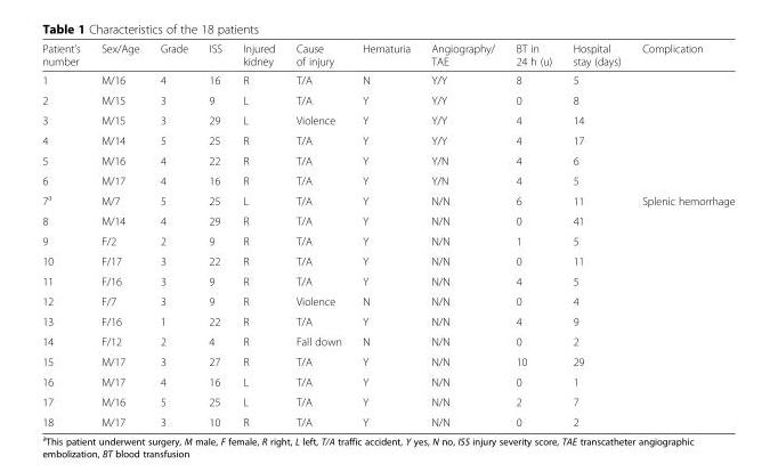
<table><thead><tr><td>Patient’s number</td><td>Sex/Age</td><td>Grade</td><td>ISS</td><td>Injured kidney</td><td>Cause of injury</td><td>Hematuria</td><td>Angiography/ TAE</td><td>BT in 24 h (u)</td><td>Hospital stay (days)</td><td>Complication</td></tr></thead><tbody><tr><td>1</td><td>M/16</td><td>4</td><td>16</td><td>R</td><td>T/A</td><td>N</td><td>Y/Y</td><td>8</td><td>5</td><td></td></tr><tr><td>2</td><td>M/15</td><td>3</td><td>9</td><td>L</td><td>T/A</td><td>Y</td><td>Y/Y</td><td>0</td><td>8</td><td></td></tr><tr><td>3</td><td>M/15</td><td>3</td><td>29</td><td>L</td><td>Violence</td><td>Y</td><td>Y/Y</td><td>4</td><td>14</td><td></td></tr><tr><td>4</td><td>M/14</td><td>5</td><td>25</td><td>R</td><td>T/A</td><td>Y</td><td>Y/Y</td><td>4</td><td>17</td><td></td></tr><tr><td>5</td><td>M/16</td><td>4</td><td>22</td><td>R</td><td>T/A</td><td>Y</td><td>Y/N</td><td>4</td><td>6</td><td></td></tr><tr><td>6</td><td>M/17</td><td>4</td><td>16</td><td>R</td><td>T/A</td><td>Y</td><td>Y/N</td><td>4</td><td>5</td><td></td></tr><tr><td>7<sup>a</sup></td><td>M/7</td><td>5</td><td>25</td><td>L</td><td>T/A</td><td>Y</td><td>N/N</td><td>6</td><td>11</td><td>Splenic hemorrhage</td></tr><tr><td>8</td><td>M/14</td><td>4</td><td>29</td><td>R</td><td>T/A</td><td>Y</td><td>N/N</td><td>0</td><td>41</td><td></td></tr><tr><td>9</td><td>F/2</td><td>2</td><td>9</td><td>R</td><td>T/A</td><td>Y</td><td>N/N</td><td>1</td><td>5</td><td></td></tr><tr><td>10</td><td>F/17</td><td>3</td><td>22</td><td>R</td><td>T/A</td><td>Y</td><td>N/N</td><td>0</td><td>11</td><td></td></tr><tr><td>11</td><td>F/16</td><td>3</td><td>9</td><td>R</td><td>T/A</td><td>Y</td><td>N/N</td><td>4</td><td>5</td><td></td></tr><tr><td>12</td><td>F/7</td><td>3</td><td>9</td><td>R</td><td>Violence</td><td>N</td><td>N/N</td><td>0</td><td>4</td><td></td></tr><tr><td>13</td><td>F/16</td><td>1</td><td>22</td><td>R</td><td>T/A</td><td>Y</td><td>N/N</td><td>4</td><td>9</td><td></td></tr><tr><td>14</td><td>F/12</td><td>2</td><td>4</td><td>R</td><td>Fall down</td><td>N</td><td>N/N</td><td>0</td><td>2</td><td></td></tr><tr><td>15</td><td>M/17</td><td>3</td><td>27</td><td>R</td><td>T/A</td><td>Y</td><td>N/N</td><td>10</td><td>29</td><td></td></tr><tr><td>16</td><td>M/17</td><td>4</td><td>16</td><td>L</td><td>T/A</td><td>Y</td><td>N/N</td><td>0</td><td>1</td><td></td></tr><tr><td>17</td><td>M/16</td><td>5</td><td>25</td><td>L</td><td>T/A</td><td>Y</td><td>N/N</td><td>2</td><td>7</td><td></td></tr><tr><td>18</td><td>M/17</td><td>3</td><td>10</td><td>R</td><td>T/A</td><td>Y</td><td>N/N</td><td>0</td><td>2</td><td></td></tr></tbody></table>